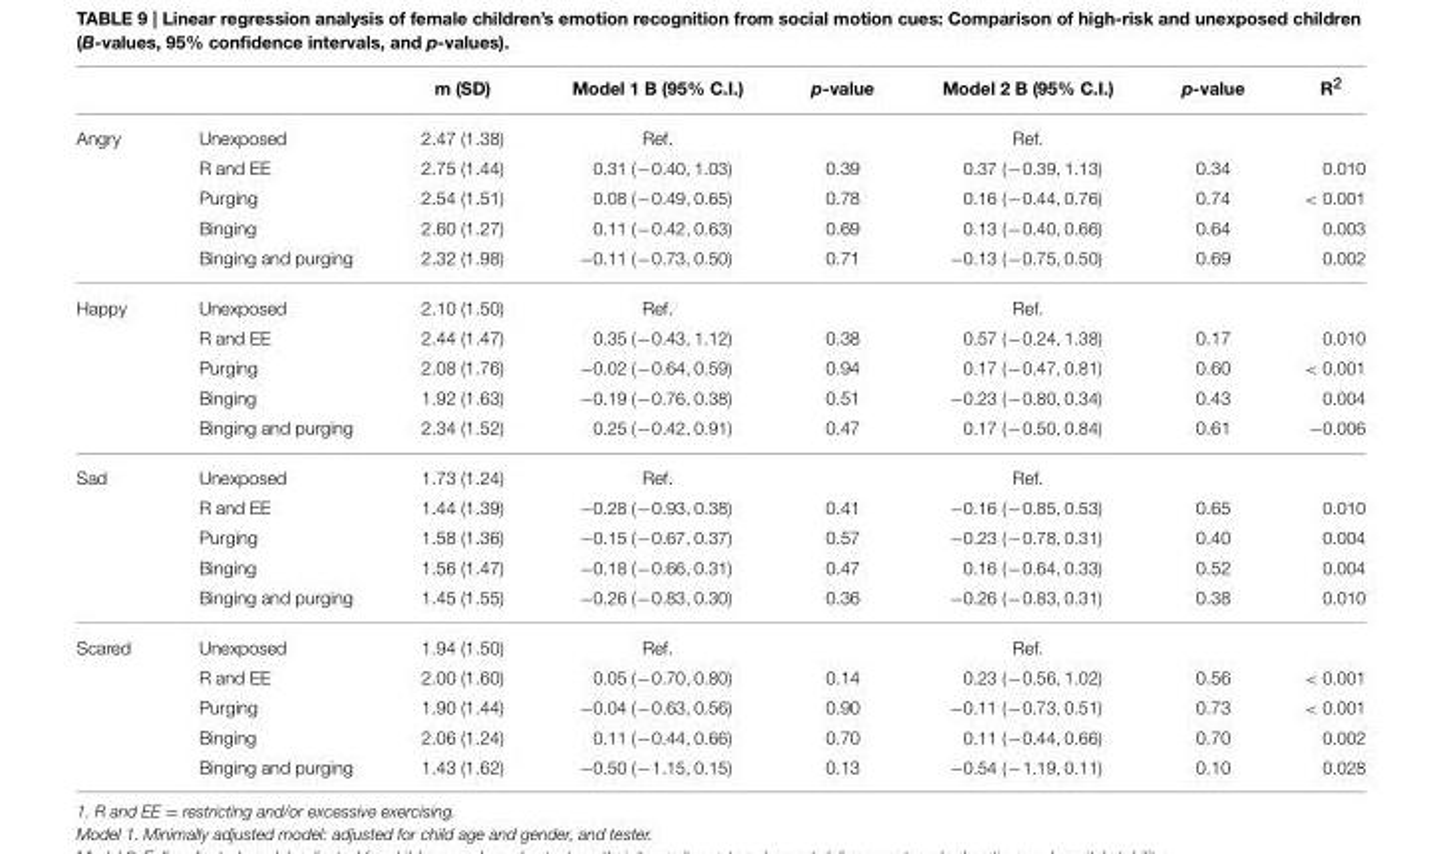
<table><thead><tr><td></td><td></td><td>m (SD)</td><td>Model 1 B (95% C.I.)</td><td>p-value</td><td>Model 2 B (95% C.I.)</td><td>p-value</td><td>R<sup>2</sup></td></tr></thead><tbody><tr><td rowspan="5">Angry</td><td>Unexposed</td><td>2.47 (1.38)</td><td>Ref.</td><td></td><td>Ref.</td><td></td><td></td></tr><tr><td>R and EE</td><td>2.75 (1.44)</td><td>0.31 (−0.40, 1.03)</td><td>0.39</td><td>0.37 (−0.39, 1.13)</td><td>0.34</td><td>0.010</td></tr><tr><td>Purging</td><td>2.54 (1.51)</td><td>0.08 (−0.49, 0.65)</td><td>0.78</td><td>0.16 (−0.44, 0.76)</td><td>0.74</td><td>&lt; 0.001</td></tr><tr><td>Binging</td><td>2.60 (1.27)</td><td>0.11 (−0.42, 0.63)</td><td>0.69</td><td>0.13 (−0.40, 0.66)</td><td>0.64</td><td>0.003</td></tr><tr><td>Binging and purging</td><td>2.32 (1.98)</td><td>−0.11 (−0.73, 0.50)</td><td>0.71</td><td>−0.13 (−0.75, 0.50)</td><td>0.69</td><td>0.002</td></tr><tr><td rowspan="5">Happy</td><td>Unexposed</td><td>2.10 (1.50)</td><td>Ref.</td><td></td><td>Ref.</td><td></td><td></td></tr><tr><td>R and EE</td><td>2.44 (1.47)</td><td>0.35 (−0.43, 1.12)</td><td>0.38</td><td>0.57 (−0.24, 1.38)</td><td>0.17</td><td>0.010</td></tr><tr><td>Purging</td><td>2.08 (1.76)</td><td>−0.02 (−0.64, 0.59)</td><td>0.94</td><td>0.17 (−0.47, 0.81)</td><td>0.60</td><td>&lt; 0.001</td></tr><tr><td>Binging</td><td>1.92 (1.63)</td><td>−0.19 (−0.76, 0.38)</td><td>0.51</td><td>−0.23 (−0.80, 0.34)</td><td>0.43</td><td>0.004</td></tr><tr><td>Binging and purging</td><td>2.34 (1.52)</td><td>0.25 (−0.42, 0.91)</td><td>0.47</td><td>0.17 (−0.50, 0.84)</td><td>0.61</td><td>−0.006</td></tr><tr><td rowspan="5">Sad</td><td>Unexposed</td><td>1.73 (1.24)</td><td>Ref.</td><td></td><td>Ref.</td><td></td><td></td></tr><tr><td>R and EE</td><td>1.44 (1.39)</td><td>−0.28 (−0.93, 0.38)</td><td>0.41</td><td>−0.16 (−0.85, 0.53)</td><td>0.65</td><td>0.010</td></tr><tr><td>Purging</td><td>1.58 (1.36)</td><td>−0.15 (−0.67, 0.37)</td><td>0.57</td><td>−0.23 (−0.78, 0.31)</td><td>0.40</td><td>0.004</td></tr><tr><td>Binging</td><td>1.56 (1.47)</td><td>−0.18 (−0.66, 0.31)</td><td>0.47</td><td>0.16 (−0.64, 0.33)</td><td>0.52</td><td>0.004</td></tr><tr><td>Binging and purging</td><td>1.45 (1.55)</td><td>−0.26 (−0.83, 0.30)</td><td>0.36</td><td>−0.26 (−0.83, 0.31)</td><td>0.38</td><td>0.010</td></tr><tr><td rowspan="5">Scared</td><td>Unexposed</td><td>1.94 (1.50)</td><td>Ref.</td><td></td><td>Ref.</td><td></td><td></td></tr><tr><td>R and EE</td><td>2.00 (1.60)</td><td>0.05 (−0.70, 0.80)</td><td>0.14</td><td>0.23 (−0.56, 1.02)</td><td>0.56</td><td>&lt; 0.001</td></tr><tr><td>Purging</td><td>1.90 (1.44)</td><td>−0.04 (−0.63, 0.56)</td><td>0.90</td><td>−0.11 (−0.73, 0.51)</td><td>0.73</td><td>&lt; 0.001</td></tr><tr><td>Binging</td><td>2.06 (1.24)</td><td>0.11 (−0.44, 0.66)</td><td>0.70</td><td>0.11 (−0.44, 0.66)</td><td>0.70</td><td>0.002</td></tr><tr><td>Binging and purging</td><td>1.43 (1.62)</td><td>−0.50 (−1.15, 0.15)</td><td>0.13</td><td>−0.54 (−1.19, 0.11)</td><td>0.10</td><td>0.028</td></tr></tbody></table>